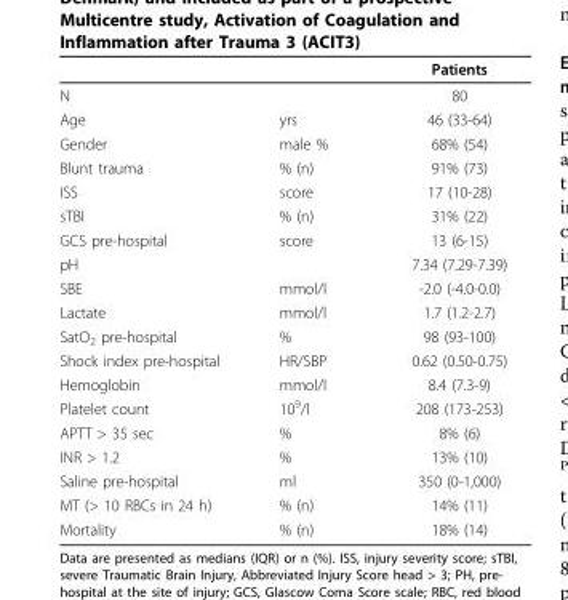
<table><thead><tr><td></td><td></td><td>Patients</td></tr></thead><tbody><tr><td>N</td><td></td><td>80</td></tr><tr><td>Age</td><td>yrs</td><td>46 (33-64)</td></tr><tr><td>Gender</td><td>male %</td><td>68% (54)</td></tr><tr><td>Blunt trauma</td><td>% (n)</td><td>91% (73)</td></tr><tr><td>ISS</td><td>score</td><td>17 (10-28)</td></tr><tr><td>sTBI</td><td>% (n)</td><td>31% (22)</td></tr><tr><td>GCS pre-hospital</td><td>score</td><td>13 (6-15)</td></tr><tr><td>pH</td><td></td><td>7.34 (7.29-7.39)</td></tr><tr><td>SBE</td><td>mmol/l</td><td>-2.0 (-4.0-0.0)</td></tr><tr><td>Lactate</td><td>mmol/l</td><td>1.7 (1.2-2.7)</td></tr><tr><td>SatO<sub>2</sub> pre-hospital</td><td>%</td><td>98 (93-100)</td></tr><tr><td>Shock index pre-hospital</td><td>HR/SBP</td><td>0.62 (0.50-0.75)</td></tr><tr><td>Hemoglobin</td><td>mmol/l</td><td>8.4 (7.3-9)</td></tr><tr><td>Platelet count</td><td>10<sup>9</sup>/l</td><td>208 (173-253)</td></tr><tr><td>APTT &gt; 35 sec</td><td>%</td><td>8% (6)</td></tr><tr><td>INR &gt; 1.2</td><td>%</td><td>13% (10)</td></tr><tr><td>Saline pre-hospital</td><td>ml</td><td>350 (0-1,000)</td></tr><tr><td>MT (&gt; 10 RBCs in 24 h)</td><td>% (n)</td><td>14% (11)</td></tr><tr><td>Mortality</td><td>% (n)</td><td>18% (14)</td></tr></tbody></table>